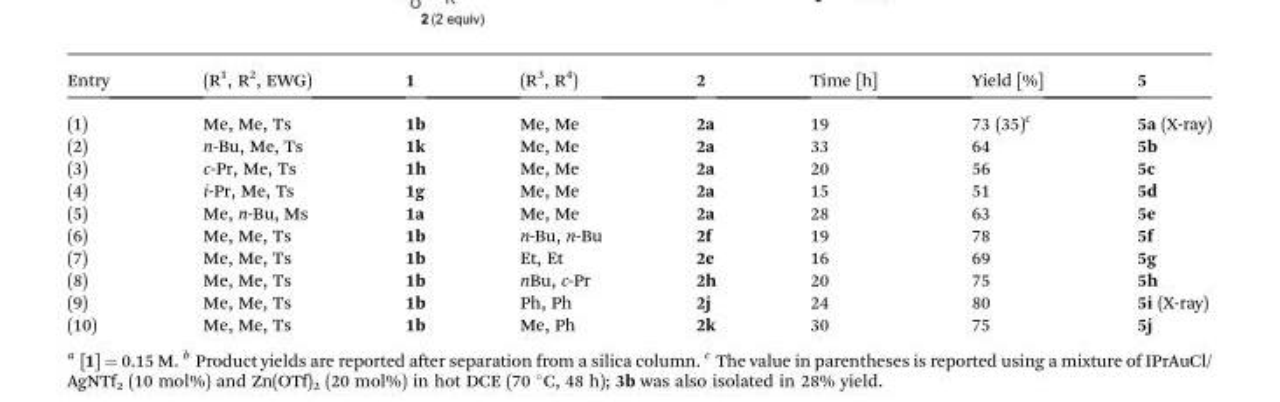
<table><thead><tr><td>Entry</td><td>(R<sup>1</sup>, R<sup>2</sup>, EWG)</td><td>1</td><td>(R<sup>3</sup>, R<sup>4</sup>)</td><td>2</td><td>Time [h]</td><td>Yield [%]</td><td>5</td></tr></thead><tbody><tr><td>(1)</td><td>Me, Me, Ts</td><td>1b</td><td>Me, Me</td><td>2a</td><td>19</td><td>73 (35)<sup>c</sup></td><td>5a (X-ray)</td></tr><tr><td>(2)</td><td>n-Bu, Me, Ts</td><td>1k</td><td>Me, Me</td><td>2a</td><td>33</td><td>64</td><td>5b</td></tr><tr><td>(3)</td><td>c-Pr, Me, Ts</td><td>1h</td><td>Me, Me</td><td>2a</td><td>20</td><td>56</td><td>5c</td></tr><tr><td>(4)</td><td>i-Pr, Me, Ts</td><td>1g</td><td>Me, Me</td><td>2a</td><td>15</td><td>51</td><td>5d</td></tr><tr><td>(5)</td><td>Me, n-Bu, Ms</td><td>1a</td><td>Me, Me</td><td>2a</td><td>28</td><td>63</td><td>5e</td></tr><tr><td>(6)</td><td>Me, Me, Ts</td><td>1b</td><td>n-Bu, n-Bu</td><td>2f</td><td>19</td><td>78</td><td>5f</td></tr><tr><td>(7)</td><td>Me, Me, Ts</td><td>1b</td><td>Et, Et</td><td>2e</td><td>16</td><td>69</td><td>5g</td></tr><tr><td>(8)</td><td>Me, Me, Ts</td><td>1b</td><td>nBu, c-Pr</td><td>2h</td><td>20</td><td>75</td><td>5h</td></tr><tr><td>(9)</td><td>Me, Me, Ts</td><td>1b</td><td>Ph, Ph</td><td>2j</td><td>24</td><td>80</td><td>5i (X-ray)</td></tr><tr><td>(10)</td><td>Me, Me, Ts</td><td>1b</td><td>Me, Ph</td><td>2k</td><td>30</td><td>75</td><td>5j</td></tr></tbody></table>